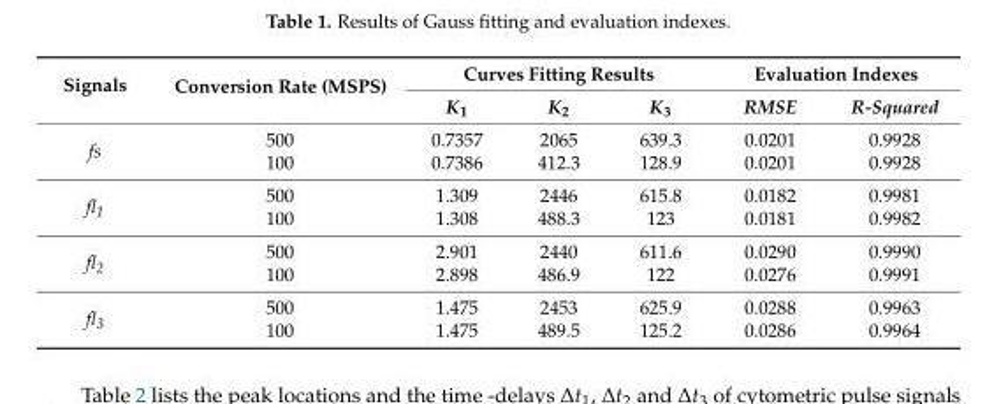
<table><thead><tr><td rowspan="2">Signals</td><td rowspan="2">Conversion Rate (MSPS)</td><td colspan="3">Curves Fitting Results</td><td colspan="2">Evaluation Indexes</td></tr><tr><td>K<sub>1</sub></td><td>K<sub>2</sub></td><td>K<sub>3</sub></td><td>RMSE</td><td>R-Squared</td></tr></thead><tbody><tr><td rowspan="2">fs</td><td>500</td><td>0.7357</td><td>2065</td><td>639.3</td><td>0.0201</td><td>0.9928</td></tr><tr><td>100</td><td>0.7386</td><td>412.3</td><td>128.9</td><td>0.0201</td><td>0.9928</td></tr><tr><td rowspan="2">fl<sub>1</sub></td><td>500</td><td>1.309</td><td>2446</td><td>615.8</td><td>0.0182</td><td>0.9981</td></tr><tr><td>100</td><td>1.308</td><td>488.3</td><td>123</td><td>0.0181</td><td>0.9982</td></tr><tr><td rowspan="2">fl<sub>2</sub></td><td>500</td><td>2.901</td><td>2440</td><td>611.6</td><td>0.0290</td><td>0.9990</td></tr><tr><td>100</td><td>2.898</td><td>486.9</td><td>122</td><td>0.0276</td><td>0.9991</td></tr><tr><td rowspan="2">fl<sub>3</sub></td><td>500</td><td>1.475</td><td>2453</td><td>625.9</td><td>0.0288</td><td>0.9963</td></tr><tr><td>100</td><td>1.475</td><td>489.5</td><td>125.2</td><td>0.0286</td><td>0.9964</td></tr></tbody></table>